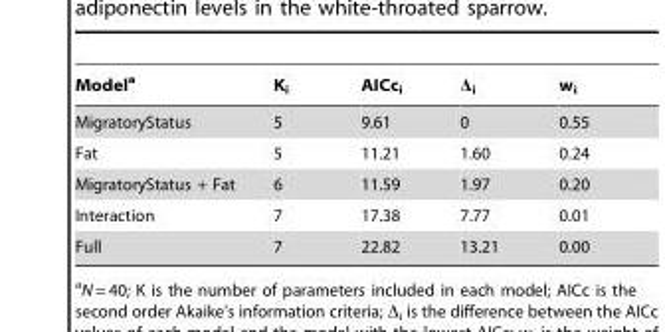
<table><thead><tr><td>Model<sup>a</sup></td><td>K<sub>i</sub></td><td>AICc<sub>i</sub></td><td>Δ<sub>i</sub></td><td>w<sub>i</sub></td></tr></thead><tbody><tr><td>MigratoryStatus</td><td>5</td><td>9.61</td><td>0</td><td>0.55</td></tr><tr><td>Fat</td><td>5</td><td>11.21</td><td>1.60</td><td>0.24</td></tr><tr><td>MigratoryStatus + Fat</td><td>6</td><td>11.59</td><td>1.97</td><td>0.20</td></tr><tr><td>Interaction</td><td>7</td><td>17.38</td><td>7.77</td><td>0.01</td></tr><tr><td>Full</td><td>7</td><td>22.82</td><td>13.21</td><td>0.00</td></tr></tbody></table>